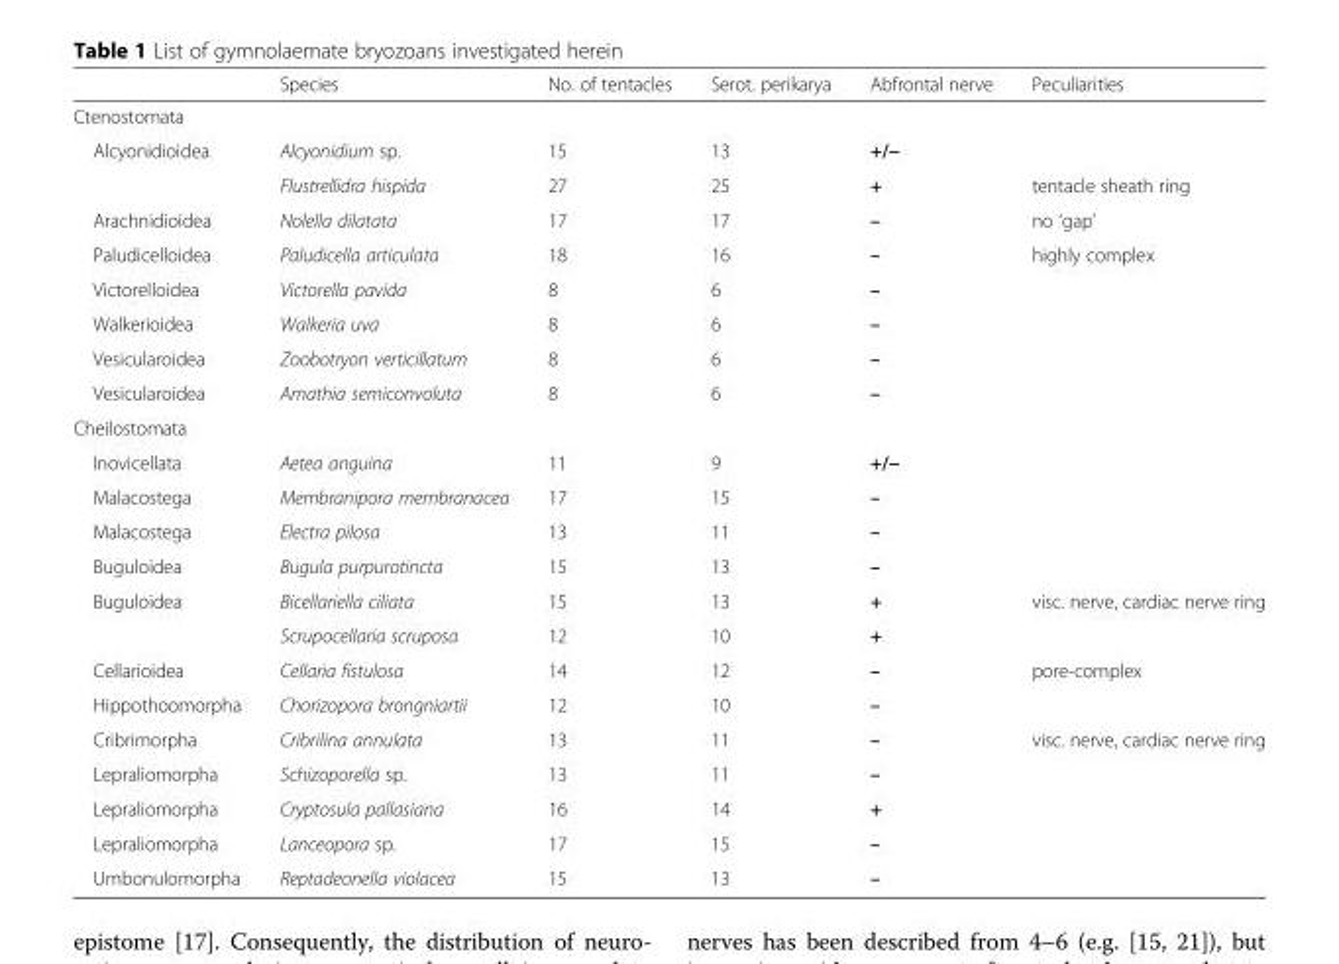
<table><thead><tr><td></td><td>Species</td><td>No. of tentacles</td><td>Serot. perikarya</td><td>Abfrontal nerve</td><td>Peculiarities</td></tr></thead><tbody><tr><td colspan="6">Ctenostomata</td></tr><tr><td rowspan="2">Alcyonidioidea</td><td>Alcyonidium sp.</td><td>15</td><td>13</td><td>+/−</td><td></td></tr><tr><td>Flustrellidra hispida</td><td>27</td><td>25</td><td>+</td><td>tentacle sheath ring</td></tr><tr><td>Arachnidioidea</td><td>Nolella dilatata</td><td>17</td><td>17</td><td>–</td><td>no ‘gap’</td></tr><tr><td>Paludicelloidea</td><td>Paludicella articulata</td><td>18</td><td>16</td><td>–</td><td>highly complex</td></tr><tr><td>Victorelloidea</td><td>Victorella pavida</td><td>8</td><td>6</td><td>–</td><td></td></tr><tr><td>Walkerioidea</td><td>Walkeria uva</td><td>8</td><td>6</td><td>–</td><td></td></tr><tr><td>Vesicularoidea</td><td>Zoobotryon verticillatum</td><td>8</td><td>6</td><td>–</td><td></td></tr><tr><td>Vesicularoidea</td><td>Amathia semiconvoluta</td><td>8</td><td>6</td><td>–</td><td></td></tr><tr><td colspan="6">Cheilostomata</td></tr><tr><td>Inovicellata</td><td>Aetea anguina</td><td>11</td><td>9</td><td>+/−</td><td></td></tr><tr><td>Malacostega</td><td>Membranipora membranacea</td><td>17</td><td>15</td><td>–</td><td></td></tr><tr><td>Malacostega</td><td>Electra pilosa</td><td>13</td><td>11</td><td>–</td><td></td></tr><tr><td>Buguloidea</td><td>Bugula purpurotincta</td><td>15</td><td>13</td><td>–</td><td></td></tr><tr><td rowspan="2">Buguloidea</td><td>Bicellariella ciliata</td><td>15</td><td>13</td><td>+</td><td>visc. nerve, cardiac nerve ring</td></tr><tr><td>Scrupocellaria scruposa</td><td>12</td><td>10</td><td>+</td><td></td></tr><tr><td>Cellarioidea</td><td>Cellaria fistulosa</td><td>14</td><td>12</td><td>–</td><td>pore-complex</td></tr><tr><td>Hippothoomorpha</td><td>Chorizopora brongniartii</td><td>12</td><td>10</td><td>–</td><td></td></tr><tr><td>Cribrimorpha</td><td>Cribrilina annulata</td><td>13</td><td>11</td><td>–</td><td>visc. nerve, cardiac nerve ring</td></tr><tr><td>Lepraliomorpha</td><td>Schizoporella sp.</td><td>13</td><td>11</td><td>–</td><td></td></tr><tr><td>Lepraliomorpha</td><td>Cryptosula pallasiana</td><td>16</td><td>14</td><td>+</td><td></td></tr><tr><td>Lepraliomorpha</td><td>Lanceopora sp.</td><td>17</td><td>15</td><td>–</td><td></td></tr><tr><td>Umbonulomorpha</td><td>Reptadeonella violacea</td><td>15</td><td>13</td><td>–</td><td></td></tr></tbody></table>